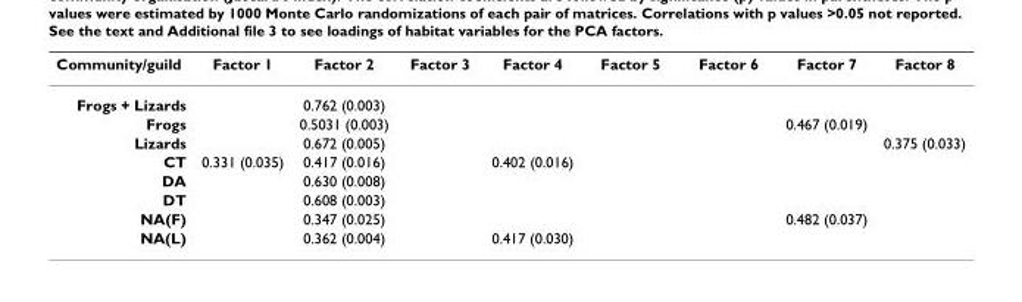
<table><thead><tr><td>Community/guild</td><td>Factor 1</td><td>Factor 2</td><td>Factor 3</td><td>Factor 4</td><td>Factor 5</td><td>Factor 6</td><td>Factor 7</td><td>Factor 8</td></tr></thead><tbody><tr><td>Frogs + Lizards</td><td></td><td>0.762 (0.003)</td><td></td><td></td><td></td><td></td><td></td><td></td></tr><tr><td>Frogs</td><td></td><td>0.5031 (0.003)</td><td></td><td></td><td></td><td></td><td>0.467 (0.019)</td><td></td></tr><tr><td>Lizards</td><td></td><td>0.672 (0.005)</td><td></td><td></td><td></td><td></td><td></td><td>0.375 (0.033)</td></tr><tr><td>CT</td><td>0.331 (0.035)</td><td>0.417 (0.016)</td><td></td><td>0.402 (0.016)</td><td></td><td></td><td></td><td></td></tr><tr><td>DA</td><td></td><td>0.630 (0.008)</td><td></td><td></td><td></td><td></td><td></td><td></td></tr><tr><td>DT</td><td></td><td>0.608 (0.003)</td><td></td><td></td><td></td><td></td><td></td><td></td></tr><tr><td>NA(F)</td><td></td><td>0.347 (0.025)</td><td></td><td></td><td></td><td></td><td>0.482 (0.037)</td><td></td></tr><tr><td>NA(L)</td><td></td><td>0.362 (0.004)</td><td></td><td>0.417 (0.030)</td><td></td><td></td><td></td><td></td></tr></tbody></table>